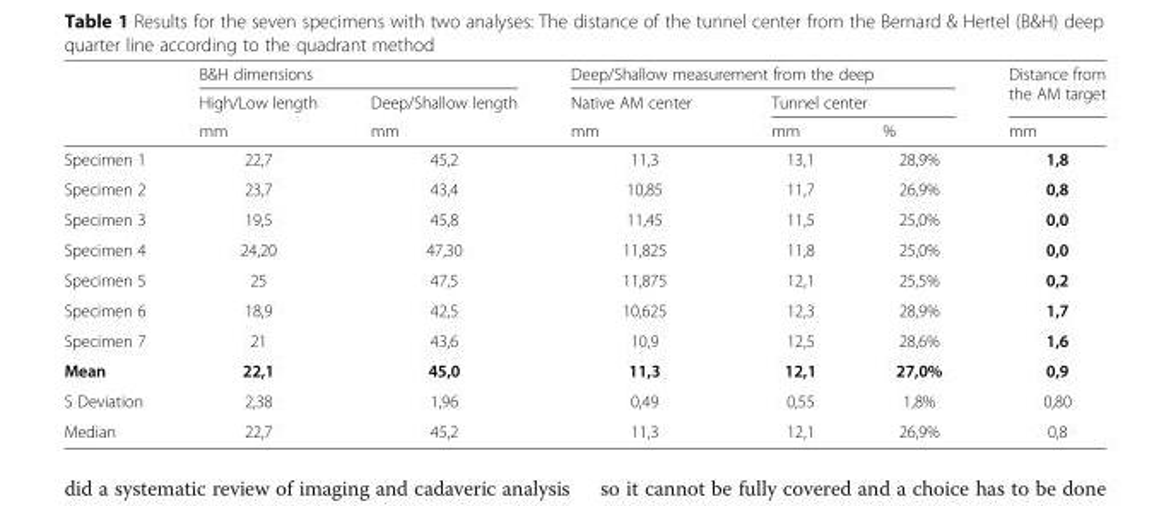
<table><thead><tr><td rowspan="3"></td><td colspan="2">B&amp;H dimensions</td><td colspan="3">Deep/Shallow measurement from the deep</td><td rowspan="3">Distance from the AM target mm</td></tr><tr><td rowspan="2">High/Low length mm</td><td rowspan="2">Deep/Shallow length mm</td><td rowspan="2">Native AM center mm</td><td colspan="2">Tunnel center</td></tr><tr><td>mm</td><td>%</td></tr></thead><tbody><tr><td>Specimen 1</td><td>22,7</td><td>45,2</td><td>11,3</td><td>13,1</td><td>28,9%</td><td>1,8</td></tr><tr><td>Specimen 2</td><td>23,7</td><td>43,4</td><td>10,85</td><td>11,7</td><td>26,9%</td><td>0,8</td></tr><tr><td>Specimen 3</td><td>19,5</td><td>45,8</td><td>11,45</td><td>11,5</td><td>25,0%</td><td>0,0</td></tr><tr><td>Specimen 4</td><td>24,20</td><td>47,30</td><td>11,825</td><td>11,8</td><td>25,0%</td><td>0,0</td></tr><tr><td>Specimen 5</td><td>25</td><td>47,5</td><td>11,875</td><td>12,1</td><td>25,5%</td><td>0,2</td></tr><tr><td>Specimen 6</td><td>18,9</td><td>42,5</td><td>10,625</td><td>12,3</td><td>28,9%</td><td>1,7</td></tr><tr><td>Specimen 7</td><td>21</td><td>43,6</td><td>10,9</td><td>12,5</td><td>28,6%</td><td>1,6</td></tr><tr><td>Mean</td><td>22,1</td><td>45,0</td><td>11,3</td><td>12,1</td><td>27,0%</td><td>0,9</td></tr><tr><td>S Deviation</td><td>2,38</td><td>1,96</td><td>0,49</td><td>0,55</td><td>1,8%</td><td>0,80</td></tr><tr><td>Median</td><td>22,7</td><td>45,2</td><td>11,3</td><td>12,1</td><td>26,9%</td><td>0,8</td></tr></tbody></table>